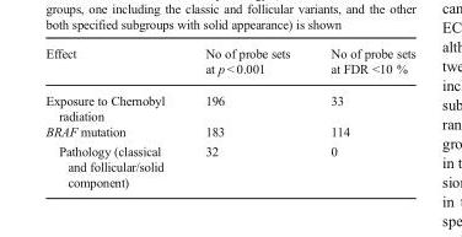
<table><thead><tr><td>Effect</td><td>No of probe sets at p &lt; 0.001</td><td>No of probe sets at FDR &lt;10 %</td></tr></thead><tbody><tr><td>Exposure to Chernobyl radiation</td><td>196</td><td>33</td></tr><tr><td>BRAF mutation</td><td>183</td><td>114</td></tr><tr><td>Pathology (classical and follicular/solid component)</td><td>32</td><td>0</td></tr></tbody></table>